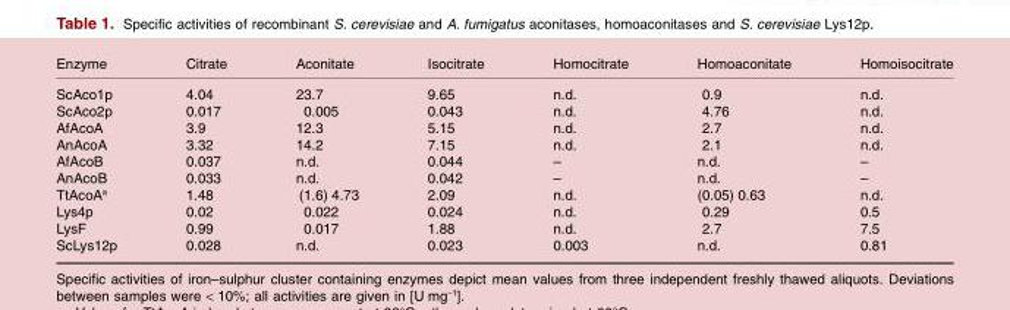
<table><thead><tr><td>Enzyme</td><td>Citrate</td><td>Aconitate</td><td>Isocitrate</td><td>Homocitrate</td><td>Homoaconitate</td><td>Homoisocitrate</td></tr></thead><tbody><tr><td>ScAco1p</td><td>4.04</td><td>23.7</td><td>9.65</td><td>n.d.</td><td>0.9</td><td>n.d.</td></tr><tr><td>ScAco2p</td><td>0.017</td><td>0.005</td><td>0.043</td><td>n.d.</td><td>4.76</td><td>n.d.</td></tr><tr><td>AfAcoA</td><td>3.9</td><td>12.3</td><td>5.15</td><td>n.d.</td><td>2.7</td><td>n.d.</td></tr><tr><td>AnAcoA</td><td>3.32</td><td>14.2</td><td>7.15</td><td>n.d.</td><td>2.1</td><td>n.d.</td></tr><tr><td>AfAcoB</td><td>0.037</td><td>n.d.</td><td>0.044</td><td>–</td><td>n.d.</td><td>–</td></tr><tr><td>AnAcoB</td><td>0.033</td><td>n.d.</td><td>0.042</td><td>–</td><td>n.d.</td><td>–</td></tr><tr><td>TtAcoA<sup>a</sup></td><td>1.48</td><td>(1.6) 4.73</td><td>2.09</td><td>n.d.</td><td>(0.05) 0.63</td><td>n.d.</td></tr><tr><td>Lys4p</td><td>0.02</td><td>0.022</td><td>0.024</td><td>n.d.</td><td>0.29</td><td>0.5</td></tr><tr><td>LysF</td><td>0.99</td><td>0.017</td><td>1.88</td><td>n.d.</td><td>2.7</td><td>7.5</td></tr><tr><td>ScLys12p</td><td>0.028</td><td>n.d.</td><td>0.023</td><td>0.003</td><td>n.d.</td><td>0.81</td></tr></tbody></table>